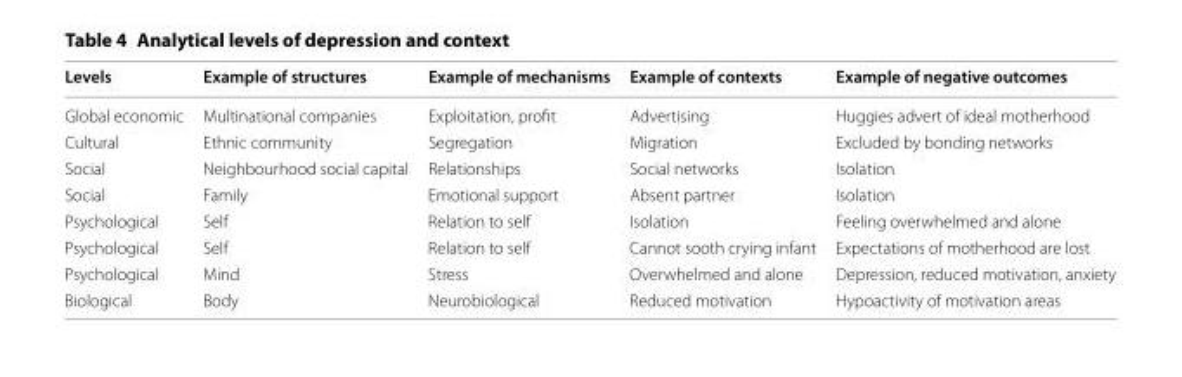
<table><thead><tr><td>Levels</td><td>Example of structures</td><td>Example of mechanisms</td><td>Example of contexts</td><td>Example of negative outcomes</td></tr></thead><tbody><tr><td>Global economic</td><td>Multinational companies</td><td>Exploitation, profit</td><td>Advertising</td><td>Huggies advert of ideal motherhood</td></tr><tr><td>Cultural</td><td>Ethnic community</td><td>Segregation</td><td>Migration</td><td>Excluded by bonding networks</td></tr><tr><td>Social</td><td>Neighbourhood social capital</td><td>Relationships</td><td>Social networks</td><td>Isolation</td></tr><tr><td>Social</td><td>Family</td><td>Emotional support</td><td>Absent partner</td><td>Isolation</td></tr><tr><td>Psychological</td><td>Self</td><td>Relation to self</td><td>Isolation</td><td>Feeling overwhelmed and alone</td></tr><tr><td>Psychological</td><td>Self</td><td>Relation to self</td><td>Cannot sooth crying infant</td><td>Expectations of motherhood are lost</td></tr><tr><td>Psychological</td><td>Mind</td><td>Stress</td><td>Overwhelmed and alone</td><td>Depression, reduced motivation, anxiety</td></tr><tr><td>Biological</td><td>Body</td><td>Neurobiological</td><td>Reduced motivation</td><td>Hypoactivity of motivation areas</td></tr></tbody></table>